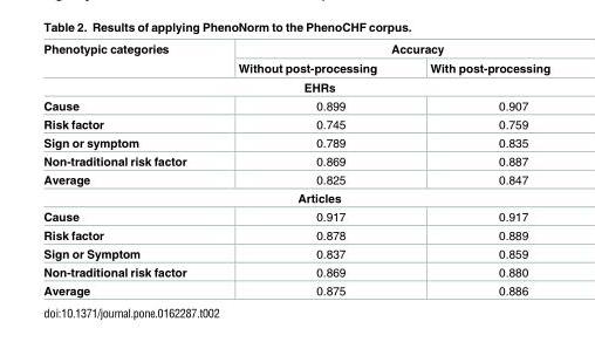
<table><thead><tr><td rowspan="2">Phenotypic categories</td><td colspan="2">Accuracy</td></tr><tr><td>Without post-processing</td><td>With post-processing</td></tr></thead><tbody><tr><td colspan="3">EHRs</td></tr><tr><td>Cause</td><td>0.899</td><td>0.907</td></tr><tr><td>Risk factor</td><td>0.745</td><td>0.759</td></tr><tr><td>Sign or symptom</td><td>0.789</td><td>0.835</td></tr><tr><td>Non-traditional risk factor</td><td>0.869</td><td>0.887</td></tr><tr><td>Average</td><td>0.825</td><td>0.847</td></tr><tr><td colspan="3">Articles</td></tr><tr><td>Cause</td><td>0.917</td><td>0.917</td></tr><tr><td>Risk factor</td><td>0.878</td><td>0.889</td></tr><tr><td>Sign or Symptom</td><td>0.837</td><td>0.859</td></tr><tr><td>Non-traditional risk factor</td><td>0.869</td><td>0.880</td></tr><tr><td>Average</td><td>0.875</td><td>0.886</td></tr></tbody></table>